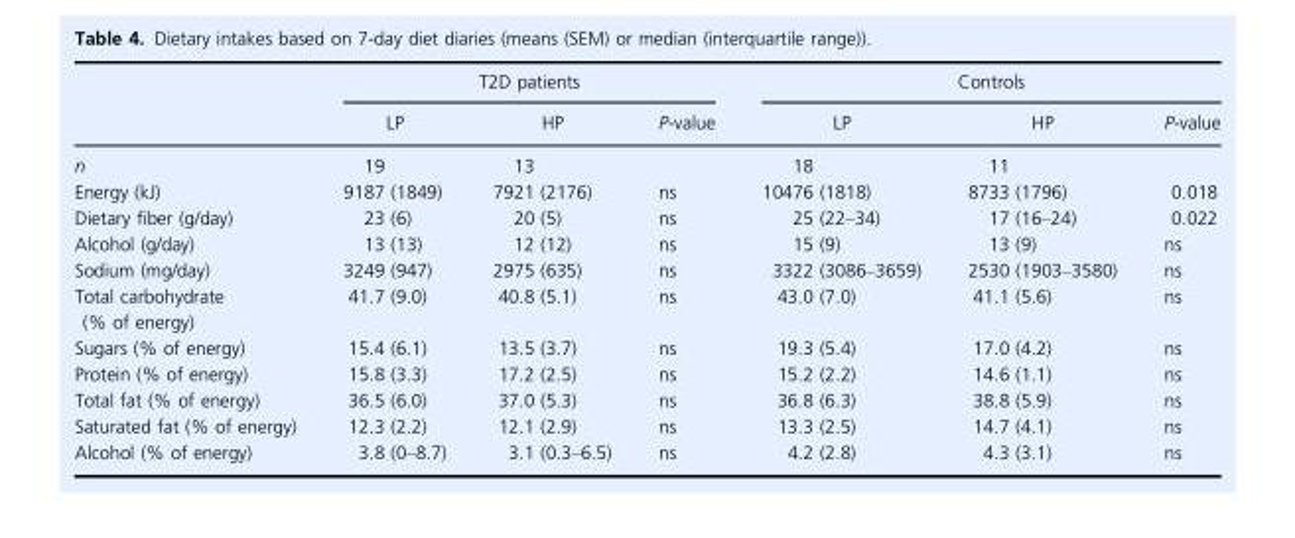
<table><thead><tr><td rowspan="2"></td><td colspan="3">T2D patients</td><td colspan="3">Controls</td></tr><tr><td>LP</td><td>HP</td><td>P-value</td><td>LP</td><td>HP</td><td>P-value</td></tr></thead><tbody><tr><td>n</td><td>19</td><td>13</td><td></td><td>18</td><td>11</td><td></td></tr><tr><td>Energy (kJ)</td><td>9187 (1849)</td><td>7921 (2176)</td><td>ns</td><td>10476 (1818)</td><td>8733 (1796)</td><td>0.018</td></tr><tr><td>Dietary fiber (g/day)</td><td>23 (6)</td><td>20 (5)</td><td>ns</td><td>25 (22–34)</td><td>17 (16–24)</td><td>0.022</td></tr><tr><td>Alcohol (g/day)</td><td>13 (13)</td><td>12 (12)</td><td>ns</td><td>15 (9)</td><td>13 (9)</td><td>ns</td></tr><tr><td>Sodium (mg/day)</td><td>3249 (947)</td><td>2975 (635)</td><td>ns</td><td>3322 (3086–3659)</td><td>2530 (1903–3580)</td><td>ns</td></tr><tr><td>Total carbohydrate (% of energy)</td><td>41.7 (9.0)</td><td>40.8 (5.1)</td><td>ns</td><td>43.0 (7.0)</td><td>41.1 (5.6)</td><td>ns</td></tr><tr><td>Sugars (% of energy)</td><td>15.4 (6.1)</td><td>13.5 (3.7)</td><td>ns</td><td>19.3 (5.4)</td><td>17.0 (4.2)</td><td>ns</td></tr><tr><td>Protein (% of energy)</td><td>15.8 (3.3)</td><td>17.2 (2.5)</td><td>ns</td><td>15.2 (2.2)</td><td>14.6 (1.1)</td><td>ns</td></tr><tr><td>Total fat (% of energy)</td><td>36.5 (6.0)</td><td>37.0 (5.3)</td><td>ns</td><td>36.8 (6.3)</td><td>38.8 (5.9)</td><td>ns</td></tr><tr><td>Saturated fat (% of energy)</td><td>12.3 (2.2)</td><td>12.1 (2.9)</td><td>ns</td><td>13.3 (2.5)</td><td>14.7 (4.1)</td><td>ns</td></tr><tr><td>Alcohol (% of energy)</td><td>3.8 (0–8.7)</td><td>3.1 (0.3–6.5)</td><td>ns</td><td>4.2 (2.8)</td><td>4.3 (3.1)</td><td>ns</td></tr></tbody></table>